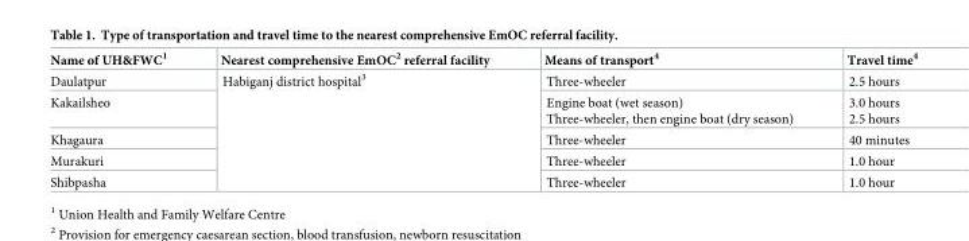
<table><thead><tr><td>Name of UH&amp;FWC<sup>1</sup></td><td>Nearest comprehensive EmOC<sup>2</sup> referral facility</td><td>Means of transport<sup>4</sup></td><td>Travel time<sup>4</sup></td></tr></thead><tbody><tr><td>Daulatpur</td><td rowspan="5">Habiganj district hospital<sup>3</sup></td><td>Three-wheeler</td><td>2.5 hours</td></tr><tr><td>Kakailsheo</td><td>Engine boat (wet season) Three-wheeler, then engine boat (dry season)</td><td>3.0 hours 2.5 hours</td></tr><tr><td>Khagaura</td><td>Three-wheeler</td><td>40 minutes</td></tr><tr><td>Murakuri</td><td>Three-wheeler</td><td>1.0 hour</td></tr><tr><td>Shibpasha</td><td>Three-wheeler</td><td>1.0 hour</td></tr></tbody></table>